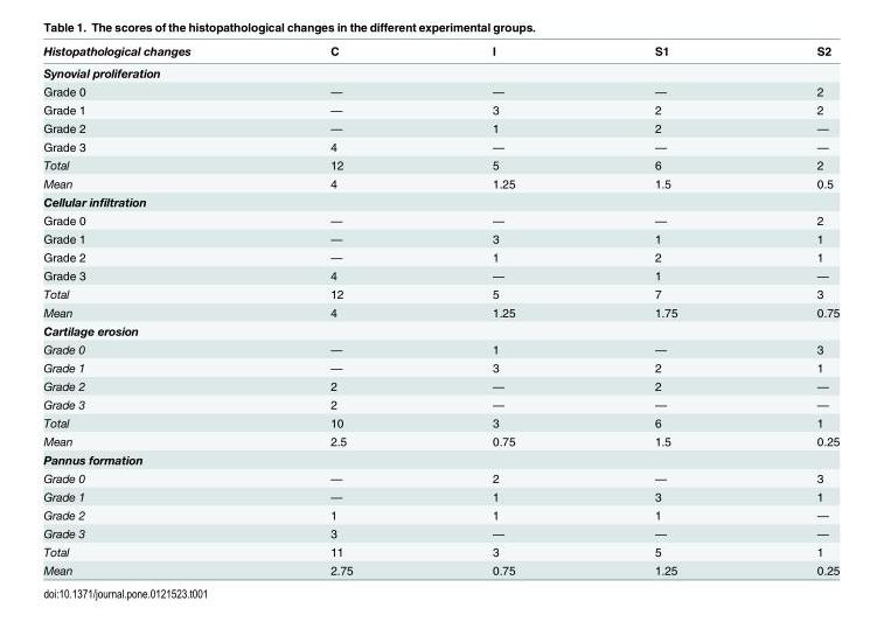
<table><thead><tr><td>Histopathological changes</td><td>C</td><td>I</td><td>S1</td><td>S2</td></tr></thead><tbody><tr><td colspan="5">Synovial proliferation</td></tr><tr><td>Grade 0</td><td>—</td><td>—</td><td>—</td><td>2</td></tr><tr><td>Grade 1</td><td>—</td><td>3</td><td>2</td><td>2</td></tr><tr><td>Grade 2</td><td>—</td><td>1</td><td>2</td><td>—</td></tr><tr><td>Grade 3</td><td>4</td><td>—</td><td>—</td><td>—</td></tr><tr><td>Total</td><td>12</td><td>5</td><td>6</td><td>2</td></tr><tr><td>Mean</td><td>4</td><td>1.25</td><td>1.5</td><td>0.5</td></tr><tr><td colspan="5">Cellular infiltration</td></tr><tr><td>Grade 0</td><td>—</td><td>—</td><td>—</td><td>2</td></tr><tr><td>Grade 1</td><td>—</td><td>3</td><td>1</td><td>1</td></tr><tr><td>Grade 2</td><td>—</td><td>1</td><td>2</td><td>1</td></tr><tr><td>Grade 3</td><td>4</td><td>—</td><td>1</td><td>—</td></tr><tr><td>Total</td><td>12</td><td>5</td><td>7</td><td>3</td></tr><tr><td>Mean</td><td>4</td><td>1.25</td><td>1.75</td><td>0.75</td></tr><tr><td colspan="5">Cartilage erosion</td></tr><tr><td>Grade 0</td><td>—</td><td>1</td><td>—</td><td>3</td></tr><tr><td>Grade 1</td><td>—</td><td>3</td><td>2</td><td>1</td></tr><tr><td>Grade 2</td><td>2</td><td>—</td><td>2</td><td>—</td></tr><tr><td>Grade 3</td><td>2</td><td>—</td><td>—</td><td>—</td></tr><tr><td>Total</td><td>10</td><td>3</td><td>6</td><td>1</td></tr><tr><td>Mean</td><td>2.5</td><td>0.75</td><td>1.5</td><td>0.25</td></tr><tr><td colspan="5">Pannus formation</td></tr><tr><td>Grade 0</td><td>—</td><td>2</td><td>—</td><td>3</td></tr><tr><td>Grade 1</td><td>—</td><td>1</td><td>3</td><td>1</td></tr><tr><td>Grade 2</td><td>1</td><td>1</td><td>1</td><td>—</td></tr><tr><td>Grade 3</td><td>3</td><td>—</td><td>—</td><td>—</td></tr><tr><td>Total</td><td>11</td><td>3</td><td>5</td><td>1</td></tr><tr><td>Mean</td><td>2.75</td><td>0.75</td><td>1.25</td><td>0.25</td></tr></tbody></table>